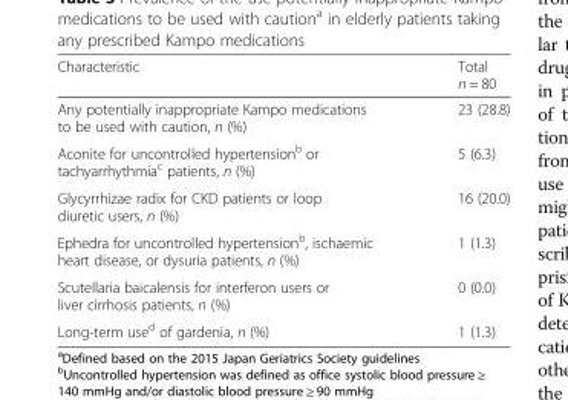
<table><thead><tr><td>Characteristic</td><td>Total n = 80</td></tr></thead><tbody><tr><td>Any potentially inappropriate Kampo medications to be used with caution, n (%)</td><td>23 (28.8)</td></tr><tr><td>Aconite for uncontrolled hypertension<sup>b</sup> or tachyarrhythmia<sup>c</sup> patients, n (%)</td><td>5 (6.3)</td></tr><tr><td>Glycyrrhizae radix for CKD patients or loop diuretic users, n (%)</td><td>16 (20.0)</td></tr><tr><td>Ephedra for uncontrolled hypertension<sup>b</sup>, ischaemic heart disease, or dysuria patients, n (%)</td><td>1 (1.3)</td></tr><tr><td>Scutellaria baicalensis for interferon users or liver cirrhosis patients, n (%)</td><td>0 (0.0)</td></tr><tr><td>Long-term use<sup>d</sup> of gardenia, n (%)</td><td>1 (1.3)</td></tr></tbody></table>